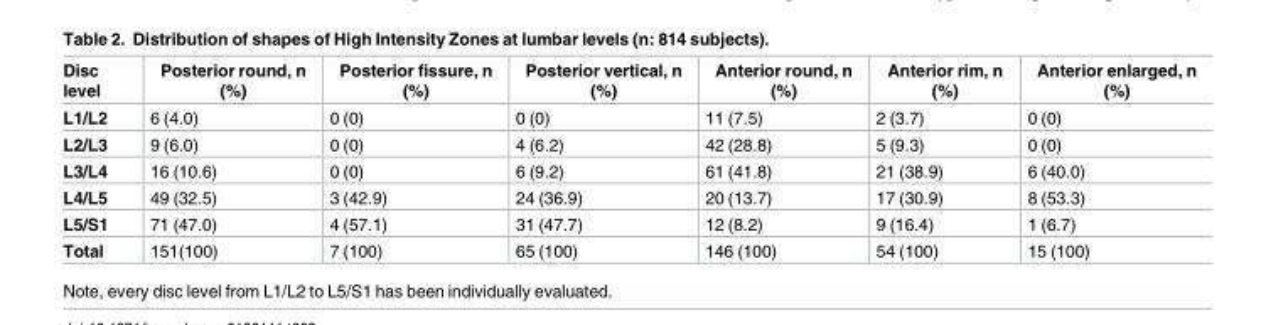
<table><thead><tr><td>Disc level</td><td>Posterior round, n (%)</td><td>Posterior fissure, n (%)</td><td>Posterior vertical, n (%)</td><td>Anterior round, n (%)</td><td>Anterior rim, n (%)</td><td>Anterior enlarged, n (%)</td></tr></thead><tbody><tr><td>L1/L2</td><td>6 (4.0)</td><td>0 (0)</td><td>0 (0)</td><td>11 (7.5)</td><td>2 (3.7)</td><td>0 (0)</td></tr><tr><td>L2/L3</td><td>9 (6.0)</td><td>0 (0)</td><td>4 (6.2)</td><td>42 (28.8)</td><td>5 (9.3)</td><td>0 (0)</td></tr><tr><td>L3/L4</td><td>16 (10.6)</td><td>0 (0)</td><td>6 (9.2)</td><td>61 (41.8)</td><td>21 (38.9)</td><td>6 (40.0)</td></tr><tr><td>L4/L5</td><td>49 (32.5)</td><td>3 (42.9)</td><td>24 (36.9)</td><td>20 (13.7)</td><td>17 (30.9)</td><td>8 (53.3)</td></tr><tr><td>L5/S1</td><td>71 (47.0)</td><td>4 (57.1)</td><td>31 (47.7)</td><td>12 (8.2)</td><td>9 (16.4)</td><td>1 (6.7)</td></tr><tr><td>Total</td><td>151(100)</td><td>7 (100)</td><td>65 (100)</td><td>146 (100)</td><td>54 (100)</td><td>15 (100)</td></tr></tbody></table>